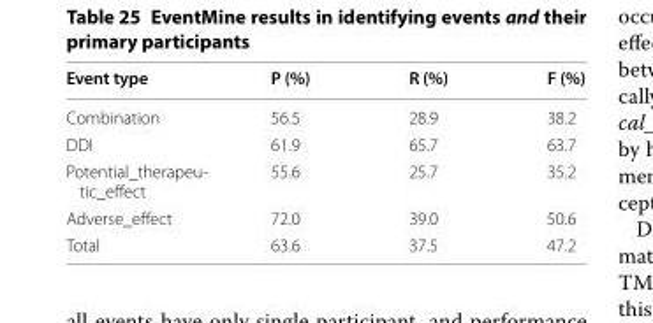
<table><thead><tr><td>Event type</td><td>P (%)</td><td>R (%)</td><td>F (%)</td></tr></thead><tbody><tr><td>Combination</td><td>56.5</td><td>28.9</td><td>38.2</td></tr><tr><td>DDI</td><td>61.9</td><td>65.7</td><td>63.7</td></tr><tr><td>Potential_therapeu‑ tic_effect</td><td>55.6</td><td>25.7</td><td>35.2</td></tr><tr><td>Adverse_effect</td><td>72.0</td><td>39.0</td><td>50.6</td></tr><tr><td>Total</td><td>63.6</td><td>37.5</td><td>47.2</td></tr></tbody></table>